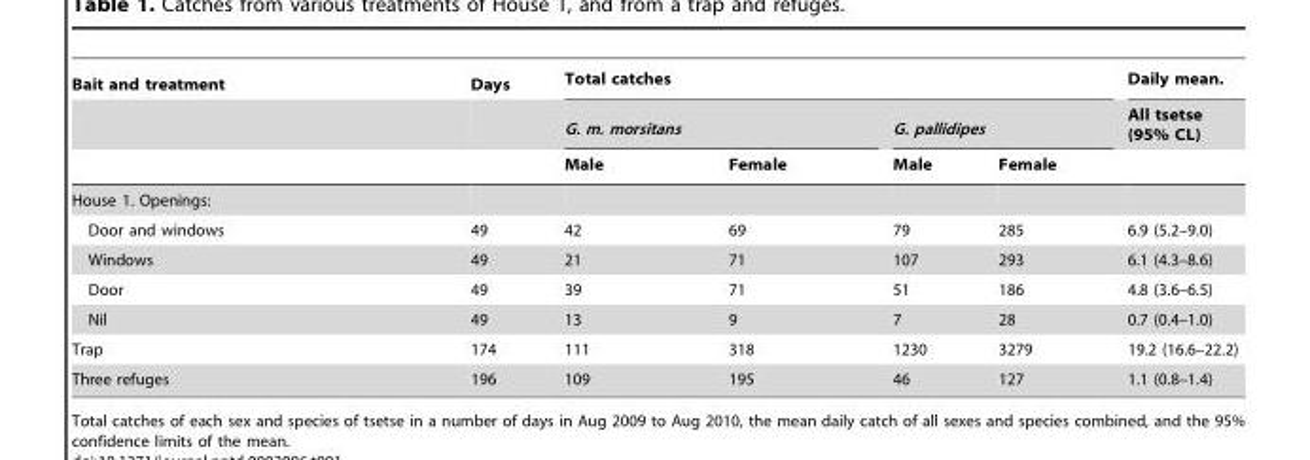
<table><thead><tr><td rowspan="3">Bait and treatment</td><td rowspan="3">Days</td><td colspan="4">Total catches</td><td rowspan="3">Daily mean. All tsetse (95% CL)</td></tr><tr><td colspan="2">G. m. morsitans</td><td colspan="2">G. pallidipes</td></tr><tr><td>Male</td><td>Female</td><td>Male</td><td>Female</td></tr></thead><tbody><tr><td colspan="7">House 1. Openings:</td></tr><tr><td>Door and windows</td><td>49</td><td>42</td><td>69</td><td>79</td><td>285</td><td>6.9 (5.2–9.0)</td></tr><tr><td>Windows</td><td>49</td><td>21</td><td>71</td><td>107</td><td>293</td><td>6.1 (4.3–8.6)</td></tr><tr><td>Door</td><td>49</td><td>39</td><td>71</td><td>51</td><td>186</td><td>4.8 (3.6–6.5)</td></tr><tr><td>Nil</td><td>49</td><td>13</td><td>9</td><td>7</td><td>28</td><td>0.7 (0.4–1.0)</td></tr><tr><td>Trap</td><td>174</td><td>111</td><td>318</td><td>1230</td><td>3279</td><td>19.2 (16.6–22.2)</td></tr><tr><td>Three refuges</td><td>196</td><td>109</td><td>195</td><td>46</td><td>127</td><td>1.1 (0.8–1.4)</td></tr></tbody></table>